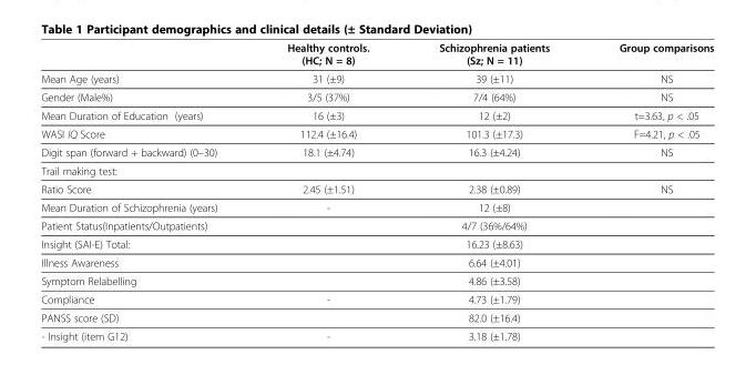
<table><thead><tr><td></td><td>Healthy controls. (HC; N = 8)</td><td>Schizophrenia patients (Sz; N = 11)</td><td>Group comparisons</td></tr></thead><tbody><tr><td>Mean Age (years)</td><td>31 (±9)</td><td>39 (±11)</td><td>NS</td></tr><tr><td>Gender (Male%)</td><td>3/5 (37%)</td><td>7/4 (64%)</td><td>NS</td></tr><tr><td>Mean Duration of Education (years)</td><td>16 (±3)</td><td>12 (±2)</td><td>t=3.63, p &lt; .05</td></tr><tr><td>WASI IQ Score</td><td>112.4 (±16.4)</td><td>101.3 (±17.3)</td><td>F=4.21, p &lt; .05</td></tr><tr><td>Digit span (forward + backward) (0–30)</td><td>18.1 (±4.74)</td><td>16.3 (±4.24)</td><td>NS</td></tr><tr><td colspan="4">Trail making test:</td></tr><tr><td>Ratio Score</td><td>2.45 (±1.51)</td><td>2.38 (±0.89)</td><td>NS</td></tr><tr><td>Mean Duration of Schizophrenia (years)</td><td>-</td><td>12 (±8)</td><td></td></tr><tr><td>Patient Status(Inpatients/Outpatients)</td><td></td><td>4/7 (36%/64%)</td><td></td></tr><tr><td>Insight (SAI-E) Total:</td><td></td><td>16.23 (±8.63)</td><td></td></tr><tr><td>Illness Awareness</td><td></td><td>6.64 (±4.01)</td><td></td></tr><tr><td>Symptom Relabelling</td><td></td><td>4.86 (±3.58)</td><td></td></tr><tr><td>Compliance</td><td>-</td><td>4.73 (±1.79)</td><td></td></tr><tr><td>PANSS score (SD)</td><td></td><td>82.0 (±16.4)</td><td></td></tr><tr><td>- Insight (item G12)</td><td>-</td><td>3.18 (±1.78)</td><td></td></tr></tbody></table>